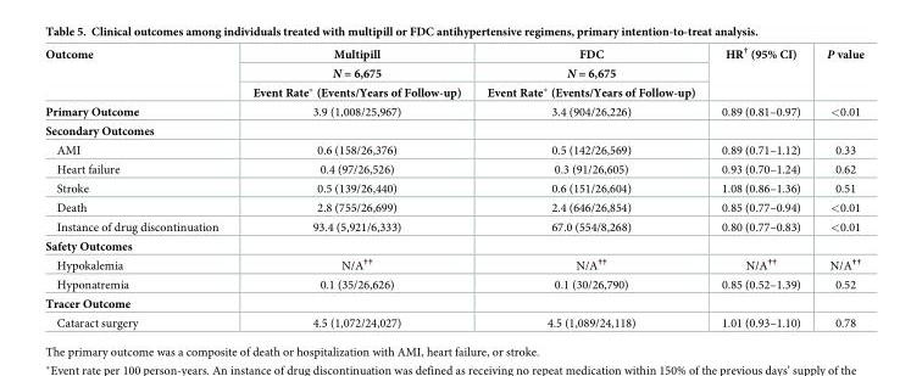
<table><thead><tr><td rowspan="3">Outcome</td><td rowspan="3">Multipill N = 6,675 Event Rate* (Events/Years of Follow-up)</td><td rowspan="3">FDC N = 6,675 Event Rate* (Events/Years of Follow-up)</td><td rowspan="3">HR<sup>†</sup> (95% CI)</td><td rowspan="3">P value</td></tr><tr></tr><tr></tr></thead><tbody><tr><td>Primary Outcome</td><td>3.9 (1,008/25,967)</td><td>3.4 (904/26,226)</td><td>0.89 (0.81–0.97)</td><td>&lt;0.01</td></tr><tr><td colspan="5">Secondary Outcomes</td></tr><tr><td>AMI</td><td>0.6 (158/26,376)</td><td>0.5 (142/26,569)</td><td>0.89 (0.71–1.12)</td><td>0.33</td></tr><tr><td>Heart failure</td><td>0.4 (97/26,526)</td><td>0.3 (91/26,605)</td><td>0.93 (0.70–1.24)</td><td>0.62</td></tr><tr><td>Stroke</td><td>0.5 (139/26,440)</td><td>0.6 (151/26,604)</td><td>1.08 (0.86–1.36)</td><td>0.51</td></tr><tr><td>Death</td><td>2.8 (755/26,699)</td><td>2.4 (646/26,854)</td><td>0.85 (0.77–0.94)</td><td>&lt;0.01</td></tr><tr><td>Instance of drug discontinuation</td><td>93.4 (5,921/6,333)</td><td>67.0 (554/8,268)</td><td>0.80 (0.77–0.83)</td><td>&lt;0.01</td></tr><tr><td colspan="5">Safety Outcomes</td></tr><tr><td>Hypokalemia</td><td>N/A<sup>††</sup></td><td>N/A<sup>††</sup></td><td>N/A<sup>††</sup></td><td>N/A<sup>††</sup></td></tr><tr><td>Hyponatremia</td><td>0.1 (35/26,626)</td><td>0.1 (30/26,790)</td><td>0.85 (0.52–1.39)</td><td>0.52</td></tr><tr><td colspan="5">Tracer Outcome</td></tr><tr><td>Cataract surgery</td><td>4.5 (1,072/24,027)</td><td>4.5 (1,089/24,118)</td><td>1.01 (0.93–1.10)</td><td>0.78</td></tr></tbody></table>